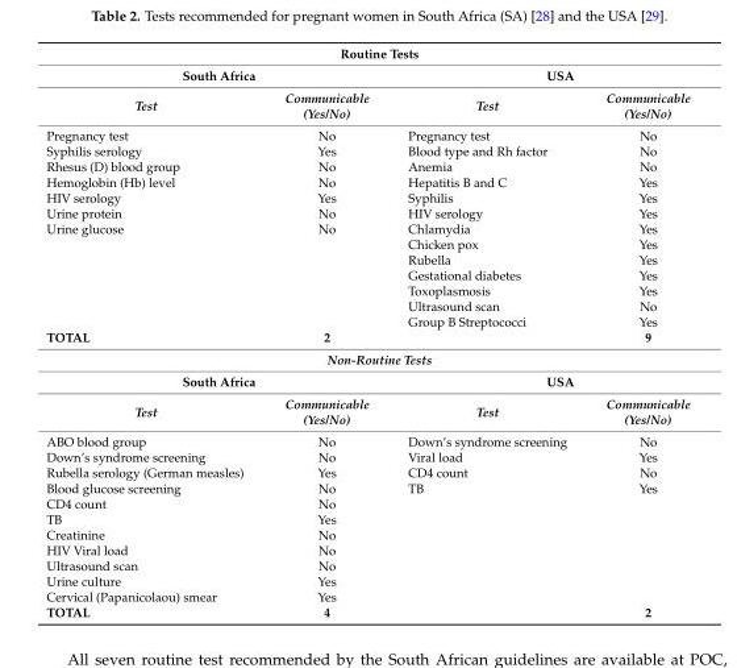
<table><tbody><tr><td colspan="4">Routine Tests</td></tr><tr><td colspan="2">South Africa</td><td colspan="2">USA</td></tr><tr><td>Test</td><td>Communicable (Yes/No)</td><td>Test</td><td>Communicable (Yes/No)</td></tr><tr><td>Pregnancy test</td><td>No</td><td>Pregnancy test</td><td>No</td></tr><tr><td>Syphilis serology</td><td>Yes</td><td>Blood type and Rh factor</td><td>No</td></tr><tr><td>Rhesus (D) blood group</td><td>No</td><td>Anemia</td><td>No</td></tr><tr><td>Hemoglobin (Hb) level</td><td>No</td><td>Hepatitis B and C</td><td>Yes</td></tr><tr><td>HIV serology</td><td>Yes</td><td>Syphilis</td><td>Yes</td></tr><tr><td>Urine protein</td><td>No</td><td>HIV serology</td><td>Yes</td></tr><tr><td rowspan="7">Urine glucose</td><td>No</td><td>Chlamydia</td><td>Yes</td></tr><tr><td></td><td>Chicken pox</td><td>Yes</td></tr><tr><td></td><td>Rubella</td><td>Yes</td></tr><tr><td></td><td>Gestational diabetes</td><td>Yes</td></tr><tr><td></td><td>Toxoplasmosis</td><td>Yes</td></tr><tr><td></td><td>Ultrasound scan</td><td>No</td></tr><tr><td></td><td>Group B Streptococci</td><td>Yes</td></tr><tr><td>TOTAL</td><td>2</td><td></td><td>9</td></tr><tr><td colspan="4">Non-Routine Tests</td></tr><tr><td colspan="2">South Africa</td><td colspan="2">USA</td></tr><tr><td>Test</td><td>Communicable (Yes/No)</td><td>Test</td><td>Communicable (Yes/No)</td></tr><tr><td>ABO blood group</td><td>No</td><td>Down’s syndrome screening</td><td>No</td></tr><tr><td>Down’s syndrome screening</td><td>No</td><td>Viral load</td><td>Yes</td></tr><tr><td>Rubella serology (German measles)</td><td>Yes</td><td>CD4 count</td><td>No</td></tr><tr><td>Blood glucose screening</td><td>No</td><td>TB</td><td>Yes</td></tr><tr><td>CD4 count</td><td>No</td><td></td><td></td></tr><tr><td>TB</td><td>Yes</td><td></td><td></td></tr><tr><td>Creatinine</td><td>No</td><td></td><td></td></tr><tr><td>HIV Viral load</td><td>No</td><td></td><td></td></tr><tr><td>Ultrasound scan</td><td>No</td><td></td><td></td></tr><tr><td>Urine culture</td><td>Yes</td><td></td><td></td></tr><tr><td>Cervical (Papanicolaou) smear</td><td>Yes</td><td></td><td></td></tr><tr><td>TOTAL</td><td>4</td><td></td><td>2</td></tr></tbody></table>